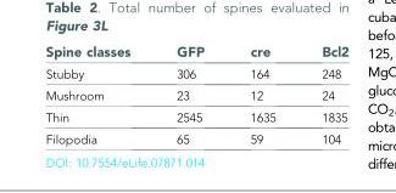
<table><thead><tr><td>Spine classes</td><td>GFP</td><td>cre</td><td>Bcl2</td></tr></thead><tbody><tr><td>Stubby</td><td>306</td><td>164</td><td>248</td></tr><tr><td>Mushroom</td><td>23</td><td>12</td><td>24</td></tr><tr><td>Thin</td><td>2545</td><td>1635</td><td>1835</td></tr><tr><td>Filopodia</td><td>65</td><td>59</td><td>104</td></tr></tbody></table>